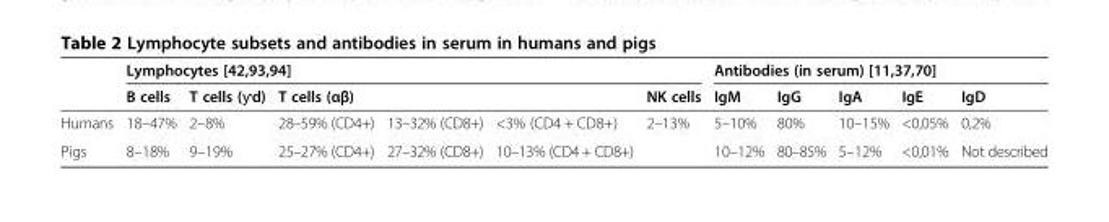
<table><thead><tr><td rowspan="2"></td><td colspan="6">Lymphocytes [42,93,94]</td><td colspan="5">Antibodies (in serum) [11,37,70]</td></tr><tr><td>B cells</td><td>T cells (ƴd)</td><td>T cells (αβ)</td><td></td><td></td><td>NK cells</td><td>IgM</td><td>IgG</td><td>IgA</td><td>IgE</td><td>IgD</td></tr></thead><tbody><tr><td>Humans</td><td>18–47%</td><td>2–8%</td><td>28–59% (CD4+)</td><td>13–32% (CD8+)</td><td>&lt;3% (CD4 + CD8+)</td><td>2–13%</td><td>5–10%</td><td>80%</td><td>10–15%</td><td>&lt;0,05%</td><td>0,2%</td></tr><tr><td>Pigs</td><td>8–18%</td><td>9–19%</td><td>25–27% (CD4+)</td><td>27–32% (CD8+)</td><td>10–13% (CD4 + CD8+)</td><td></td><td>10–12%</td><td>80–85%</td><td>5–12%</td><td>&lt;0,01%</td><td>Not described</td></tr></tbody></table>